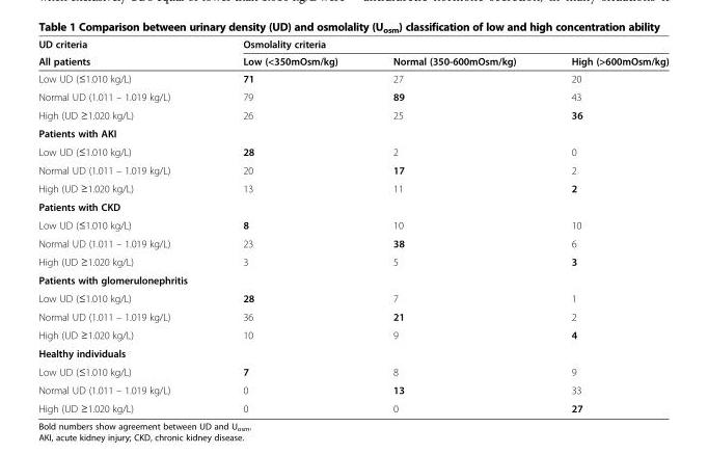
<table><thead><tr><td rowspan="2">UD criteria All patients</td><td colspan="3">Osmolality criteria</td></tr><tr><td>Low (&lt;350mOsm/kg)</td><td>Normal (350-600mOsm/kg)</td><td>High (&gt;600mOsm/kg)</td></tr></thead><tbody><tr><td>Low UD (≤1.010 kg/L)</td><td>71</td><td>27</td><td>20</td></tr><tr><td>Normal UD (1.011 – 1.019 kg/L)</td><td>79</td><td>89</td><td>43</td></tr><tr><td>High (UD ≥1.020 kg/L)</td><td>26</td><td>25</td><td>36</td></tr><tr><td colspan="4">Patients with AKI</td></tr><tr><td>Low UD (≤1.010 kg/L)</td><td>28</td><td>2</td><td>0</td></tr><tr><td>Normal UD (1.011 – 1.019 kg/L)</td><td>20</td><td>17</td><td>2</td></tr><tr><td>High (UD ≥1.020 kg/L)</td><td>13</td><td>11</td><td>2</td></tr><tr><td colspan="4">Patients with CKD</td></tr><tr><td>Low UD (≤1.010 kg/L)</td><td>8</td><td>10</td><td>10</td></tr><tr><td>Normal UD (1.011 – 1.019 kg/L)</td><td>23</td><td>38</td><td>6</td></tr><tr><td>High (UD ≥1.020 kg/L)</td><td>3</td><td>5</td><td>3</td></tr><tr><td colspan="4">Patients with glomerulonephritis</td></tr><tr><td>Low UD (≤1.010 kg/L)</td><td>28</td><td>7</td><td>1</td></tr><tr><td>Normal UD (1.011 – 1.019 kg/L)</td><td>36</td><td>21</td><td>2</td></tr><tr><td>High (UD ≥1.020 kg/L)</td><td>10</td><td>9</td><td>4</td></tr><tr><td colspan="4">Healthy individuals</td></tr><tr><td>Low UD (≤1.010 kg/L)</td><td>7</td><td>8</td><td>9</td></tr><tr><td>Normal UD (1.011 – 1.019 kg/L)</td><td>0</td><td>13</td><td>33</td></tr><tr><td>High (UD ≥1.020 kg/L)</td><td>0</td><td>0</td><td>27</td></tr></tbody></table>